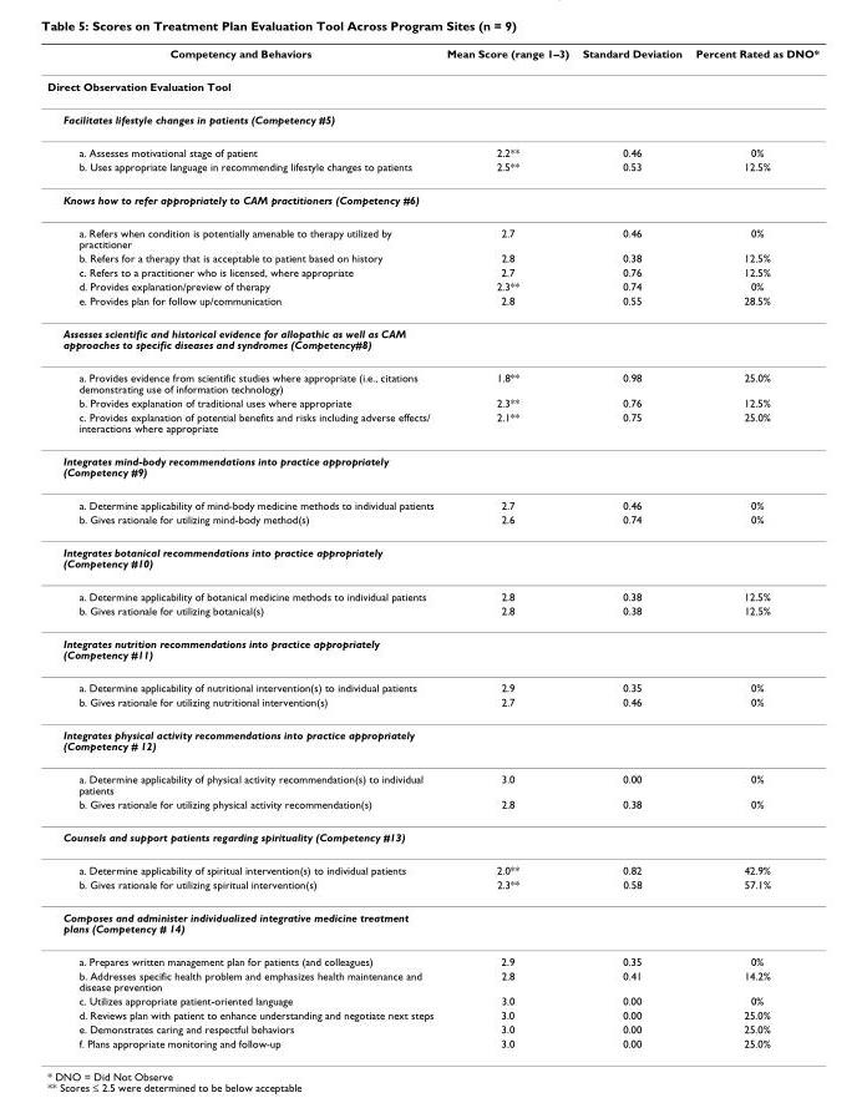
<table><thead><tr><td>Competency and Behaviors</td><td>Mean Score (range 1–3)</td><td>Standard Deviation</td><td>Percent Rated as DNO*</td></tr></thead><tbody><tr><td colspan="4">Direct Observation Evaluation Tool</td></tr><tr><td colspan="4">Facilitates lifestyle changes in patients (Competency #5)</td></tr><tr><td>a. Assesses motivational stage of patient</td><td>2.2**</td><td>0.46</td><td>0%</td></tr><tr><td>b. Uses appropriate language in recommending lifestyle changes to patients</td><td>2.5**</td><td>0.53</td><td>12.5%</td></tr><tr><td colspan="4">Knows how to refer appropriately to CAM practitioners (Competency #6)</td></tr><tr><td>a. Refers when condition is potentially amenable to therapy utilized by practitioner</td><td>2.7</td><td>0.46</td><td>0%</td></tr><tr><td>b. Refers for a therapy that is acceptable to patient based on history</td><td>2.8</td><td>0.38</td><td>12.5%</td></tr><tr><td>c. Refers to a practitioner who is licensed, where appropriate</td><td>2.7</td><td>0.76</td><td>12.5%</td></tr><tr><td>d. Provides explanation/preview of therapy</td><td>2.3**</td><td>0.74</td><td>0%</td></tr><tr><td>e. Provides plan for follow up/communication</td><td>2.8</td><td>0.55</td><td>28.5%</td></tr><tr><td colspan="4">Assesses scientific and historical evidence for allopathic as well as CAM approaches to specific diseases and syndromes (Competency#8)</td></tr><tr><td>a. Provides evidence from scientific studies where appropriate (i.e., citations demonstrating use of information technology)</td><td>1.8**</td><td>0.98</td><td>25.0%</td></tr><tr><td>b. Provides explanation of traditional uses where appropriate</td><td>2.3**</td><td>0.76</td><td>12.5%</td></tr><tr><td>c. Provides explanation of potential benefits and risks including adverse effects/ interactions where appropriate</td><td>2.1**</td><td>0.75</td><td>25.0%</td></tr><tr><td colspan="4">Integrates mind-body recommendations into practice appropriately (Competency #9)</td></tr><tr><td>a. Determine applicability of mind-body medicine methods to individual patients</td><td>2.7</td><td>0.46</td><td>0%</td></tr><tr><td>b. Gives rationale for utilizing mind-body method(s)</td><td>2.6</td><td>0.74</td><td>0%</td></tr><tr><td colspan="4">Integrates botanical recommendations into practice appropriately (Competency #10)</td></tr><tr><td>a. Determine applicability of botanical medicine methods to individual patients</td><td>2.8</td><td>0.38</td><td>12.5%</td></tr><tr><td>b. Gives rationale for utilizing botanical(s)</td><td>2.8</td><td>0.38</td><td>12.5%</td></tr><tr><td colspan="4">Integrates nutrition recommendations into practice appropriately (Competency #11)</td></tr><tr><td>a. Determine applicability of nutritional intervention(s) to individual patients</td><td>2.9</td><td>0.35</td><td>0%</td></tr><tr><td>b. Gives rationale for utilizing nutritional intervention(s)</td><td>2.7</td><td>0.46</td><td>0%</td></tr><tr><td colspan="4">Integrates physical activity recommendations into practice appropriately (Competency # 12)</td></tr><tr><td>a. Determine applicability of physical activity recommendation(s) to individual patients</td><td>3.0</td><td>0.00</td><td>0%</td></tr><tr><td>b. Gives rationale for utilizing physical activity recommendation(s)</td><td>2.8</td><td>0.38</td><td>0%</td></tr><tr><td colspan="4">Counsels and support patients regarding spirituality (Competency #13)</td></tr><tr><td>a. Determine applicability of spiritual intervention(s) to individual patients</td><td>2.0**</td><td>0.82</td><td>42.9%</td></tr><tr><td>b. Gives rationale for utilizing spiritual intervention(s)</td><td>2.3**</td><td>0.58</td><td>57.1%</td></tr><tr><td colspan="4">Composes and administer individualized integrative medicine treatment plans (Competency # 14)</td></tr><tr><td>a. Prepares written management plan for patients (and colleagues)</td><td>2.9</td><td>0.35</td><td>0%</td></tr><tr><td>b. Addresses specific health problem and emphasizes health maintenance and disease prevention</td><td>2.8</td><td>0.41</td><td>14.2%</td></tr><tr><td>c. Utilizes appropriate patient-oriented language</td><td>3.0</td><td>0.00</td><td>0%</td></tr><tr><td>d. Reviews plan with patient to enhance understanding and negotiate next steps</td><td>3.0</td><td>0.00</td><td>25.0%</td></tr><tr><td>e. Demonstrates caring and respectful behaviors</td><td>3.0</td><td>0.00</td><td>25.0%</td></tr><tr><td>f. Plans appropriate monitoring and follow-up</td><td>3.0</td><td>0.00</td><td>25.0%</td></tr></tbody></table>